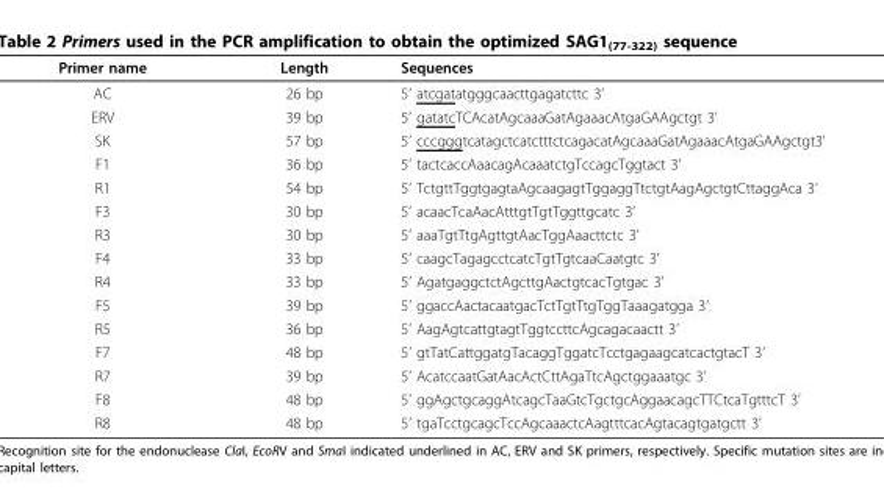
<table><thead><tr><td>Primer name</td><td>Length</td><td>Sequences</td></tr></thead><tbody><tr><td>AC</td><td>26 bp</td><td>5’ atcgatatgggcaacttgagatcttc 3’</td></tr><tr><td>ERV</td><td>39 bp</td><td>5’ gatatcTCAcatAgcaaaGatAgaaacAtgaGAAgctgt 3’</td></tr><tr><td>SK</td><td>57 bp</td><td>5’ cccgggtcatagctcatctttctcagacatAgcaaaGatAgaaacAtgaGAAgctgt3’</td></tr><tr><td>F1</td><td>36 bp</td><td>5’ tactcaccAaacagAcaaatctgTccagcTggtact 3’</td></tr><tr><td>R1</td><td>54 bp</td><td>5’ TctgttTggtgagtaAgcaagagtTggaggTtctgtAagAgctgtCttaggAca 3’</td></tr><tr><td>F3</td><td>30 bp</td><td>5’ acaacTcaAacAtttgtTgtTggttgcatc 3’</td></tr><tr><td>R3</td><td>30 bp</td><td>5’ aaaTgtTtgAgttgtAacTggAaacttctc 3’</td></tr><tr><td>F4</td><td>33 bp</td><td>5’ caagcTagagcctcatcTgtTgtcaaCaatgtc 3’</td></tr><tr><td>R4</td><td>33 bp</td><td>5’ AgatgaggctctAgcttgAactgtcacTgtgac 3’</td></tr><tr><td>F5</td><td>39 bp</td><td>5’ ggaccAactacaatgacTctTgtTtgTggTaaagatgga 3’</td></tr><tr><td>R5</td><td>36 bp</td><td>5’ AagAgtcattgtagtTggtccttcAgcagacaactt 3’</td></tr><tr><td>F7</td><td>48 bp</td><td>5’ gtTatCattggatgTacaggTggatcTcctgagaagcatcactgtacT 3’</td></tr><tr><td>R7</td><td>39 bp</td><td>5’ AcatccaatGatAacActCttAgaTtcAgctggaaatgc 3’</td></tr><tr><td>F8</td><td>48 bp</td><td>5’ ggAgctgcaggAtcagcTaaGtcTgctgcAggaacagcTTCtcaTgtttcT 3’</td></tr><tr><td>R8</td><td>48 bp</td><td>5’ tgaTcctgcagcTccAgcaaactcAagtttcacAgtacagtgatgctt 3’</td></tr></tbody></table>